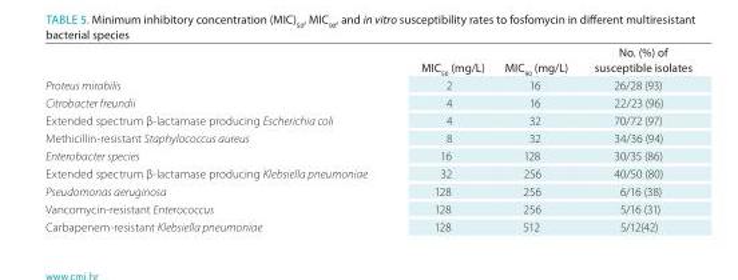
<table><thead><tr><td></td><td>MIC<sub>50</sub> (mg/L)</td><td>MIC<sub>90</sub> (mg/L)</td><td>No. (%) of susceptible isolates</td></tr></thead><tbody><tr><td>Proteus mirabilis</td><td>2</td><td>16</td><td>26/28 (93)</td></tr><tr><td>Citrobacter freundii</td><td>4</td><td>16</td><td>22/23 (96)</td></tr><tr><td>Extended spectrum β-lactamase producing Escherichia coli</td><td>4</td><td>32</td><td>70/72 (97)</td></tr><tr><td>Methicillin-resistant Staphylococcus aureus</td><td>8</td><td>32</td><td>34/36 (94)</td></tr><tr><td>Enterobacter species</td><td>16</td><td>128</td><td>30/35 (86)</td></tr><tr><td>Extended spectrum β-lactamase producing Klebsiella pneumoniae</td><td>32</td><td>256</td><td>40/50 (80)</td></tr><tr><td>Pseudomonas aeruginosa</td><td>128</td><td>256</td><td>6/16 (38)</td></tr><tr><td>Vancomycin-resistant Enterococcus</td><td>128</td><td>256</td><td>5/16 (31)</td></tr><tr><td>Carbapenem-resistant Klebsiella pneumoniae</td><td>128</td><td>512</td><td>5/12(42)</td></tr></tbody></table>